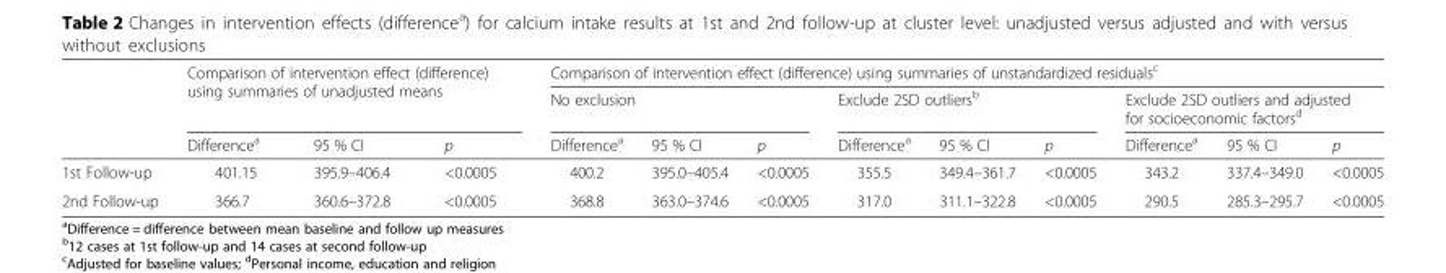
<table><thead><tr><td rowspan="3"></td><td rowspan="2" colspan="3">Comparison of intervention effect (difference) using summaries of unadjusted means</td><td colspan="9">Comparison of intervention effect (difference) using summaries of unstandardized residuals<sup>c</sup></td></tr><tr><td colspan="3">No exclusion</td><td colspan="3">Exclude 2SD outliers<sup>b</sup></td><td colspan="3">Exclude 2SD outliers and adjusted for socioeconomic factors<sup>d</sup></td></tr><tr><td>Difference<sup>a</sup></td><td>95 % CI</td><td>p</td><td>Difference<sup>a</sup></td><td>95 % CI</td><td>p</td><td>Difference<sup>a</sup></td><td>95 % CI</td><td>p</td><td>Difference<sup>a</sup></td><td>95 % CI</td><td>p</td></tr></thead><tbody><tr><td>1st Follow-up</td><td>401.15</td><td>395.9–406.4</td><td>&lt;0.0005</td><td>400.2</td><td>395.0–405.4</td><td>&lt;0.0005</td><td>355.5</td><td>349.4–361.7</td><td>&lt;0.0005</td><td>343.2</td><td>337.4–349.0</td><td>&lt;0.0005</td></tr><tr><td>2nd Follow-up</td><td>366.7</td><td>360.6–372.8</td><td>&lt;0.0005</td><td>368.8</td><td>363.0–374.6</td><td>&lt;0.0005</td><td>317.0</td><td>311.1–322.8</td><td>&lt;0.0005</td><td>290.5</td><td>285.3–295.7</td><td>&lt;0.0005</td></tr></tbody></table>